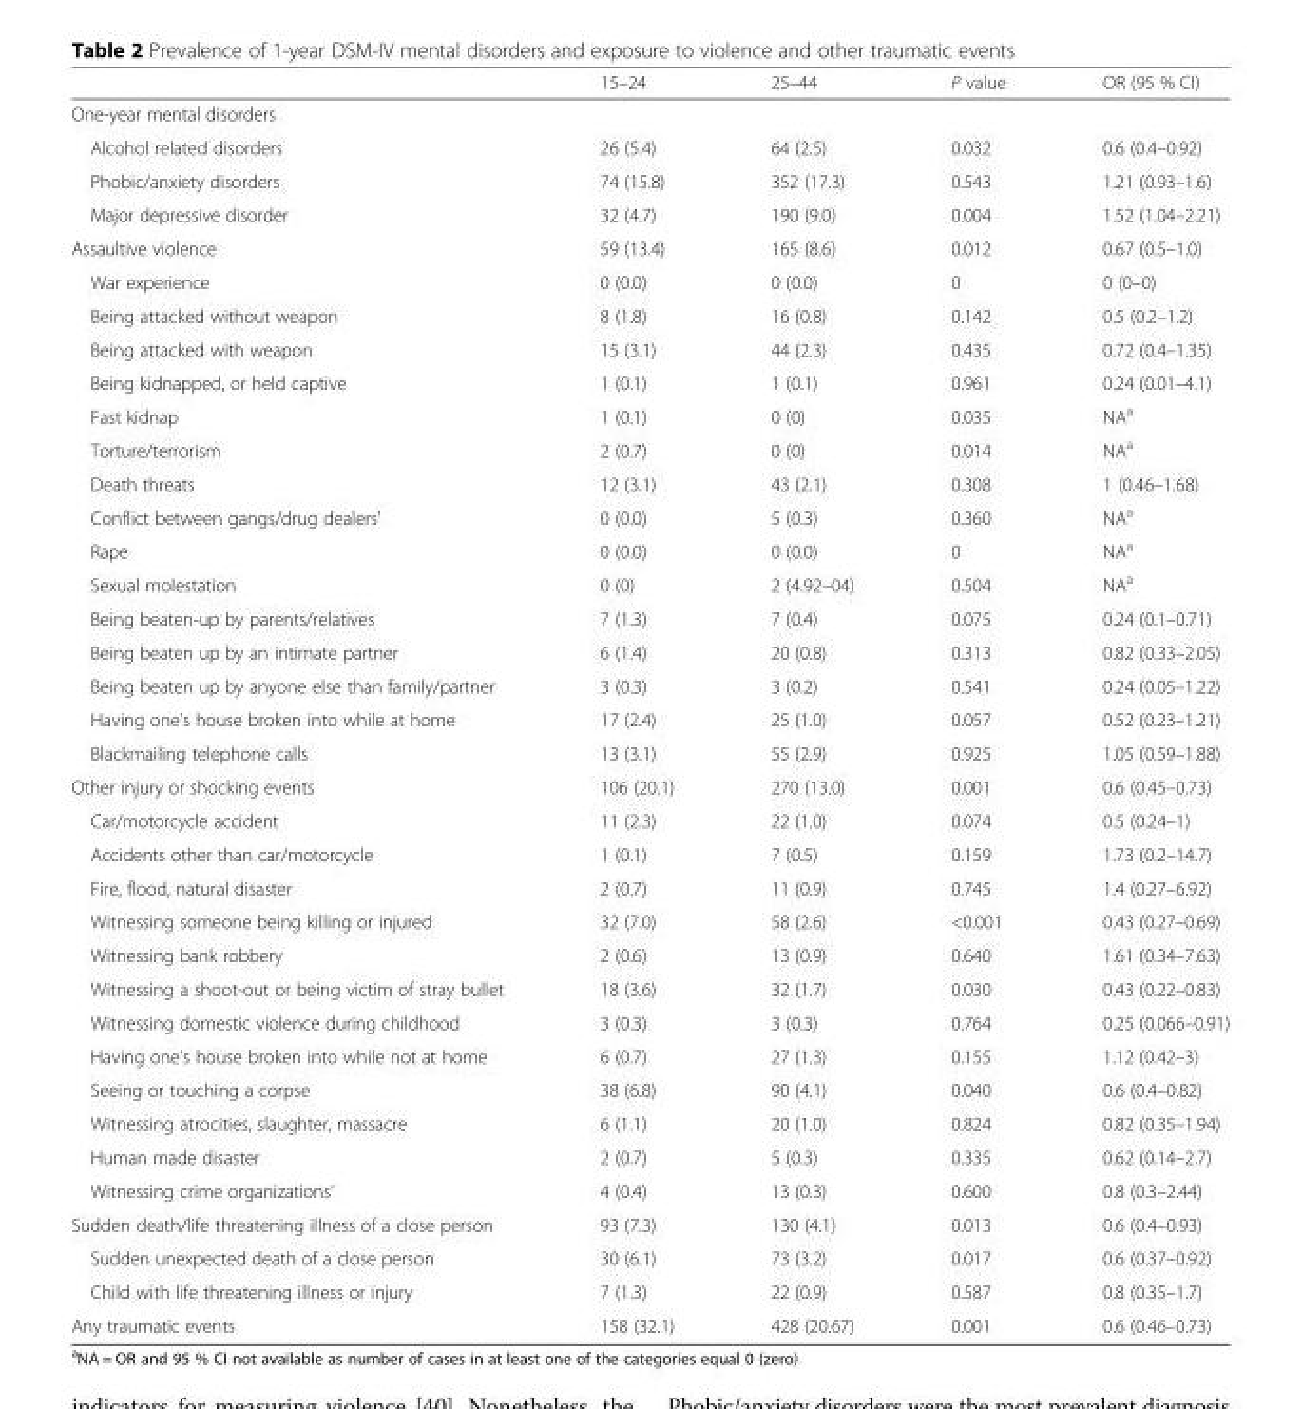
<table><thead><tr><td></td><td>15–24</td><td>25–44</td><td>P value</td><td>OR (95 % CI)</td></tr></thead><tbody><tr><td colspan="5">One-year mental disorders</td></tr><tr><td>Alcohol related disorders</td><td>26 (5.4)</td><td>64 (2.5)</td><td>0.032</td><td>0.6 (0.4–0.92)</td></tr><tr><td>Phobic/anxiety disorders</td><td>74 (15.8)</td><td>352 (17.3)</td><td>0.543</td><td>1.21 (0.93–1.6)</td></tr><tr><td>Major depressive disorder</td><td>32 (4.7)</td><td>190 (9.0)</td><td>0.004</td><td>1.52 (1.04–2.21)</td></tr><tr><td>Assaultive violence</td><td>59 (13.4)</td><td>165 (8.6)</td><td>0.012</td><td>0.67 (0.5–1.0)</td></tr><tr><td>War experience</td><td>0 (0.0)</td><td>0 (0.0)</td><td>0</td><td>0 (0–0)</td></tr><tr><td>Being attacked without weapon</td><td>8 (1.8)</td><td>16 (0.8)</td><td>0.142</td><td>0.5 (0.2–1.2)</td></tr><tr><td>Being attacked with weapon</td><td>15 (3.1)</td><td>44 (2.3)</td><td>0.435</td><td>0.72 (0.4–1.35)</td></tr><tr><td>Being kidnapped, or held captive</td><td>1 (0.1)</td><td>1 (0.1)</td><td>0.961</td><td>0.24 (0.01–4.1)</td></tr><tr><td>Fast kidnap</td><td>1 (0.1)</td><td>0 (0)</td><td>0.035</td><td>NA<sup>a</sup></td></tr><tr><td>Torture/terrorism</td><td>2 (0.7)</td><td>0 (0)</td><td>0.014</td><td>NA<sup>a</sup></td></tr><tr><td>Death threats</td><td>12 (3.1)</td><td>43 (2.1)</td><td>0.308</td><td>1 (0.46–1.68)</td></tr><tr><td>Conflict between gangs/drug dealers’</td><td>0 (0.0)</td><td>5 (0.3)</td><td>0.360</td><td>NA<sup>a</sup></td></tr><tr><td>Rape</td><td>0 (0.0)</td><td>0 (0.0)</td><td>0</td><td>NA<sup>a</sup></td></tr><tr><td>Sexual molestation</td><td>0 (0)</td><td>2 (4.92–04)</td><td>0.504</td><td>NA<sup>a</sup></td></tr><tr><td>Being beaten-up by parents/relatives</td><td>7 (1.3)</td><td>7 (0.4)</td><td>0.075</td><td>0.24 (0.1–0.71)</td></tr><tr><td>Being beaten up by an intimate partner</td><td>6 (1.4)</td><td>20 (0.8)</td><td>0.313</td><td>0.82 (0.33–2.05)</td></tr><tr><td>Being beaten up by anyone else than family/partner</td><td>3 (0.3)</td><td>3 (0.2)</td><td>0.541</td><td>0.24 (0.05–1.22)</td></tr><tr><td>Having one’s house broken into while at home</td><td>17 (2.4)</td><td>25 (1.0)</td><td>0.057</td><td>0.52 (0.23–1.21)</td></tr><tr><td>Blackmailing telephone calls</td><td>13 (3.1)</td><td>55 (2.9)</td><td>0.925</td><td>1.05 (0.59–1.88)</td></tr><tr><td>Other injury or shocking events</td><td>106 (20.1)</td><td>270 (13.0)</td><td>0.001</td><td>0.6 (0.45–0.73)</td></tr><tr><td>Car/motorcycle accident</td><td>11 (2.3)</td><td>22 (1.0)</td><td>0.074</td><td>0.5 (0.24–1)</td></tr><tr><td>Accidents other than car/motorcycle</td><td>1 (0.1)</td><td>7 (0.5)</td><td>0.159</td><td>1.73 (0.2–14.7)</td></tr><tr><td>Fire, flood, natural disaster</td><td>2 (0.7)</td><td>11 (0.9)</td><td>0.745</td><td>1.4 (0.27–6.92)</td></tr><tr><td>Witnessing someone being killing or injured</td><td>32 (7.0)</td><td>58 (2.6)</td><td>&lt;0.001</td><td>0.43 (0.27–0.69)</td></tr><tr><td>Witnessing bank robbery</td><td>2 (0.6)</td><td>13 (0.9)</td><td>0.640</td><td>1.61 (0.34–7.63)</td></tr><tr><td>Witnessing a shoot-out or being victim of stray bullet</td><td>18 (3.6)</td><td>32 (1.7)</td><td>0.030</td><td>0.43 (0.22–0.83)</td></tr><tr><td>Witnessing domestic violence during childhood</td><td>3 (0.3)</td><td>3 (0.3)</td><td>0.764</td><td>0.25 (0.066–0.91)</td></tr><tr><td>Having one’s house broken into while not at home</td><td>6 (0.7)</td><td>27 (1.3)</td><td>0.155</td><td>1.12 (0.42–3)</td></tr><tr><td>Seeing or touching a corpse</td><td>38 (6.8)</td><td>90 (4.1)</td><td>0.040</td><td>0.6 (0.4–0.82)</td></tr><tr><td>Witnessing atrocities, slaughter, massacre</td><td>6 (1.1)</td><td>20 (1.0)</td><td>0.824</td><td>0.82 (0.35–1.94)</td></tr><tr><td>Human made disaster</td><td>2 (0.7)</td><td>5 (0.3)</td><td>0.335</td><td>0.62 (0.14–2.7)</td></tr><tr><td>Witnessing crime organizations’</td><td>4 (0.4)</td><td>13 (0.3)</td><td>0.600</td><td>0.8 (0.3–2.44)</td></tr><tr><td>Sudden death/life threatening illness of a close person</td><td>93 (7.3)</td><td>130 (4.1)</td><td>0.013</td><td>0.6 (0.4–0.93)</td></tr><tr><td>Sudden unexpected death of a close person</td><td>30 (6.1)</td><td>73 (3.2)</td><td>0.017</td><td>0.6 (0.37–0.92)</td></tr><tr><td>Child with life threatening illness or injury</td><td>7 (1.3)</td><td>22 (0.9)</td><td>0.587</td><td>0.8 (0.35–1.7)</td></tr><tr><td>Any traumatic events</td><td>158 (32.1)</td><td>428 (20.67)</td><td>0.001</td><td>0.6 (0.46–0.73)</td></tr></tbody></table>